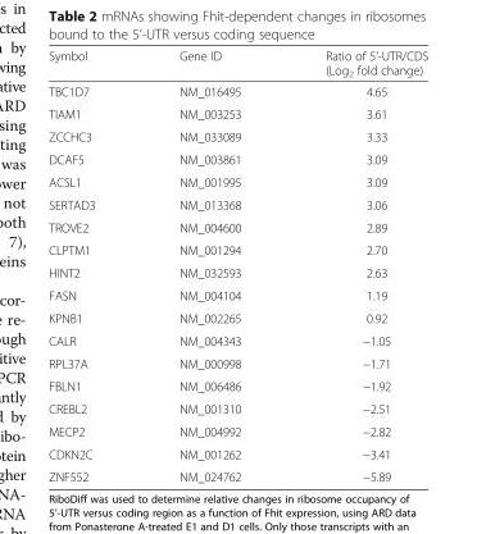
<table><thead><tr><td>Symbol</td><td>Gene ID</td><td>Ratio of 5’-UTR/CDS (Log<sub>2</sub> fold change)</td></tr></thead><tbody><tr><td>TBC1D7</td><td>NM_016495</td><td>4.65</td></tr><tr><td>TIAM1</td><td>NM_003253</td><td>3.61</td></tr><tr><td>ZCCHC3</td><td>NM_033089</td><td>3.33</td></tr><tr><td>DCAF5</td><td>NM_003861</td><td>3.09</td></tr><tr><td>ACSL1</td><td>NM_001995</td><td>3.09</td></tr><tr><td>SERTAD3</td><td>NM_013368</td><td>3.06</td></tr><tr><td>TROVE2</td><td>NM_004600</td><td>2.89</td></tr><tr><td>CLPTM1</td><td>NM_001294</td><td>2.70</td></tr><tr><td>HINT2</td><td>NM_032593</td><td>2.63</td></tr><tr><td>FASN</td><td>NM_004104</td><td>1.19</td></tr><tr><td>KPNB1</td><td>NM_002265</td><td>0.92</td></tr><tr><td>CALR</td><td>NM_004343</td><td>−1.05</td></tr><tr><td>RPL37A</td><td>NM_000998</td><td>−1.71</td></tr><tr><td>FBLN1</td><td>NM_006486</td><td>−1.92</td></tr><tr><td>CREBL2</td><td>NM_001310</td><td>−2.51</td></tr><tr><td>MECP2</td><td>NM_004992</td><td>−2.82</td></tr><tr><td>CDKN2C</td><td>NM_001262</td><td>−3.41</td></tr><tr><td>ZNF552</td><td>NM_024762</td><td>−5.89</td></tr></tbody></table>